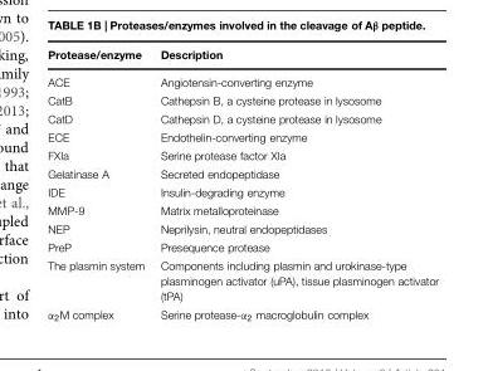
<table><thead><tr><td>Protease/enzyme</td><td>Description</td></tr></thead><tbody><tr><td>ACE</td><td>Angiotensin-converting enzyme</td></tr><tr><td>CatB</td><td>Cathepsin B, a cysteine protease in lysosome</td></tr><tr><td>CatD</td><td>Cathepsin D, a cysteine protease in lysosome</td></tr><tr><td>ECE</td><td>Endothelin-converting enzyme</td></tr><tr><td>FXIa</td><td>Serine protease factor XIa</td></tr><tr><td>Gelatinase A</td><td>Secreted endopeptidase</td></tr><tr><td>IDE</td><td>Insulin-degrading enzyme</td></tr><tr><td>MMP-9</td><td>Matrix metalloproteinase</td></tr><tr><td>NEP</td><td>Neprilysin, neutral endopeptidases</td></tr><tr><td>PreP</td><td>Presequence protease</td></tr><tr><td>The plasmin system</td><td>Components including plasmin and urokinase-type plasminogen activator (uPA), tissue plasminogen activator (tPA)</td></tr><tr><td>α<sub>2</sub>M complex</td><td>Serine protease-α<sub>2</sub> macroglobulin complex</td></tr></tbody></table>